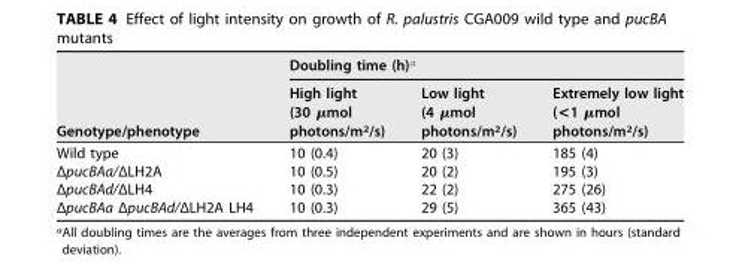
<table><thead><tr><td rowspan="2">Genotype/phenotype</td><td colspan="3">Doubling time (h)<sup>a</sup></td></tr><tr><td>High light (30 µmol photons/m<sup>2</sup>/s)</td><td>Low light (4 µmol photons/m<sup>2</sup>/s)</td><td>Extremely low light (&lt;1 µmol photons/m<sup>2</sup>/s)</td></tr></thead><tbody><tr><td>Wild type</td><td>10 (0.4)</td><td>20 (3)</td><td>185 (4)</td></tr><tr><td>ΔpucBAa/ΔLH2A</td><td>10 (0.5)</td><td>20 (2)</td><td>195 (3)</td></tr><tr><td>ΔpucBAd/ΔLH4</td><td>10 (0.3)</td><td>22 (2)</td><td>275 (26)</td></tr><tr><td>ΔpucBAa ΔpucBAd/ΔLH2A LH4</td><td>10 (0.3)</td><td>29 (5)</td><td>365 (43)</td></tr></tbody></table>